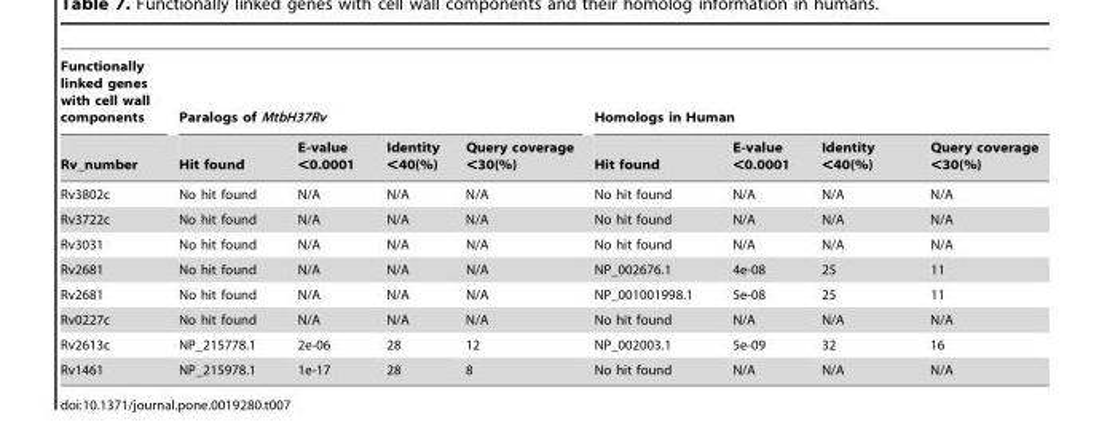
<table><thead><tr><td rowspan="2">Functionally linked genes with cell wall components Rv_number</td><td colspan="4">Paralogs of MtbH37Rv</td><td colspan="4">Homologs in Human</td></tr><tr><td>Hit found</td><td>E-value &lt;0.0001</td><td>Identity &lt;40(%)</td><td>Query coverage &lt;30(%)</td><td>Hit found</td><td>E-value &lt;0.0001</td><td>Identity &lt;40(%)</td><td>Query coverage &lt;30(%)</td></tr></thead><tbody><tr><td>Rv3802c</td><td>No hit found</td><td>N/A</td><td>N/A</td><td>N/A</td><td>No hit found</td><td>N/A</td><td>N/A</td><td>N/A</td></tr><tr><td>Rv3722c</td><td>No hit found</td><td>N/A</td><td>N/A</td><td>N/A</td><td>No hit found</td><td>N/A</td><td>N/A</td><td>N/A</td></tr><tr><td>Rv3031</td><td>No hit found</td><td>N/A</td><td>N/A</td><td>N/A</td><td>No hit found</td><td>N/A</td><td>N/A</td><td>N/A</td></tr><tr><td>Rv2681</td><td>No hit found</td><td>N/A</td><td>N/A</td><td>N/A</td><td>NP_002676.1</td><td>4e-08</td><td>25</td><td>11</td></tr><tr><td>Rv2681</td><td>No hit found</td><td>N/A</td><td>N/A</td><td>N/A</td><td>NP_001001998.1</td><td>5e-08</td><td>25</td><td>11</td></tr><tr><td>Rv0227c</td><td>No hit found</td><td>N/A</td><td>N/A</td><td>N/A</td><td>No hit found</td><td>N/A</td><td>N/A</td><td>N/A</td></tr><tr><td>Rv2613c</td><td>NP_215778.1</td><td>2e-06</td><td>28</td><td>12</td><td>NP_002003.1</td><td>5e-09</td><td>32</td><td>16</td></tr><tr><td>Rv1461</td><td>NP_215978.1</td><td>1e-17</td><td>28</td><td>8</td><td>No hit found</td><td>N/A</td><td>N/A</td><td>N/A</td></tr></tbody></table>